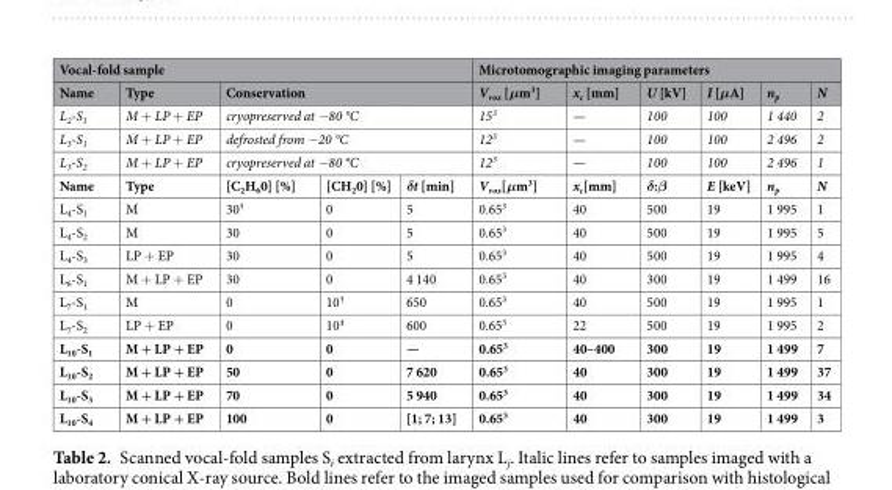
<table><thead><tr><td colspan="5">Vocal-fold sample</td><td colspan="6">Microtomographic imaging parameters</td></tr><tr><td>Name</td><td>Type</td><td colspan="3">Conservation</td><td>V<sub>vox</sub> [μm<sup>3</sup>]</td><td>x<sub>c</sub> [mm]</td><td>U [kV]</td><td>I [μA]</td><td>n<sub>p</sub></td><td>N</td></tr></thead><tbody><tr><td>L<sub>2</sub>-S<sub>1</sub></td><td>M + LP + EP</td><td colspan="3">cryopreserved at −80 °C</td><td>15<sup>3</sup></td><td>—</td><td>100</td><td>100</td><td>1 440</td><td>2</td></tr><tr><td>L<sub>3</sub>-S<sub>1</sub></td><td>M + LP + EP</td><td colspan="3">defrosted from −20 °C</td><td>12<sup>3</sup></td><td>—</td><td>100</td><td>100</td><td>2 496</td><td>2</td></tr><tr><td>L<sub>3</sub>-S<sub>2</sub></td><td>M + LP + EP</td><td colspan="3">cryopreserved at −80 °C</td><td>12<sup>3</sup></td><td>—</td><td>100</td><td>100</td><td>2 496</td><td>1</td></tr><tr><td>Name</td><td>Type</td><td>[C<sub>2</sub>H<sub>6</sub>0] [%]</td><td>[CH<sub>2</sub>0] [%]</td><td>δt [min]</td><td>V<sub>vox</sub>[μm<sup>3</sup>]</td><td>x<sub>c</sub>[mm]</td><td>δ:β</td><td>E [keV]</td><td>n<sub>p</sub></td><td>N</td></tr><tr><td>L<sub>4</sub>-S<sub>1</sub></td><td>M</td><td>30<sup>†</sup></td><td>0</td><td>5</td><td>0.65<sup>3</sup></td><td>40</td><td>500</td><td>19</td><td>1 995</td><td>1</td></tr><tr><td>L<sub>4</sub>-S<sub>2</sub></td><td>M</td><td>30</td><td>0</td><td>5</td><td>0.65<sup>3</sup></td><td>40</td><td>500</td><td>19</td><td>1 995</td><td>5</td></tr><tr><td>L<sub>4</sub>-S<sub>3</sub></td><td>LP + EP</td><td>30</td><td>0</td><td>5</td><td>0.65<sup>3</sup></td><td>40</td><td>500</td><td>19</td><td>1 995</td><td>4</td></tr><tr><td>L<sub>6</sub>-S<sub>1</sub></td><td>M + LP + EP</td><td>30</td><td>0</td><td>4 140</td><td>0.65<sup>3</sup></td><td>40</td><td>300</td><td>19</td><td>1 499</td><td>16</td></tr><tr><td>L<sub>7</sub>-S<sub>1</sub></td><td>M</td><td>0</td><td>10<sup>†</sup></td><td>650</td><td>0.65<sup>3</sup></td><td>40</td><td>500</td><td>19</td><td>1 995</td><td>1</td></tr><tr><td>L<sub>7</sub>-S<sub>2</sub></td><td>LP + EP</td><td>0</td><td>10<sup>‡</sup></td><td>600</td><td>0.65<sup>3</sup></td><td>22</td><td>500</td><td>19</td><td>1 995</td><td>2</td></tr><tr><td>L<sub>10</sub>-S<sub>1</sub></td><td>M + LP + EP</td><td>0</td><td>0</td><td>—</td><td>0.65<sup>3</sup></td><td>40–400</td><td>300</td><td>19</td><td>1 499</td><td>7</td></tr><tr><td>L<sub>10</sub>-S<sub>2</sub></td><td>M + LP + EP</td><td>50</td><td>0</td><td>7 620</td><td>0.65<sup>3</sup></td><td>40</td><td>300</td><td>19</td><td>1 499</td><td>37</td></tr><tr><td>L<sub>10</sub>-S<sub>3</sub></td><td>M + LP + EP</td><td>70</td><td>0</td><td>5 940</td><td>0.65<sup>3</sup></td><td>40</td><td>300</td><td>19</td><td>1 499</td><td>34</td></tr><tr><td>L<sub>10</sub>-S<sub>4</sub></td><td>M + LP + EP</td><td>100</td><td>0</td><td>[1; 7; 13]</td><td>0.65<sup>3</sup></td><td>40</td><td>300</td><td>19</td><td>1 499</td><td>3</td></tr></tbody></table>